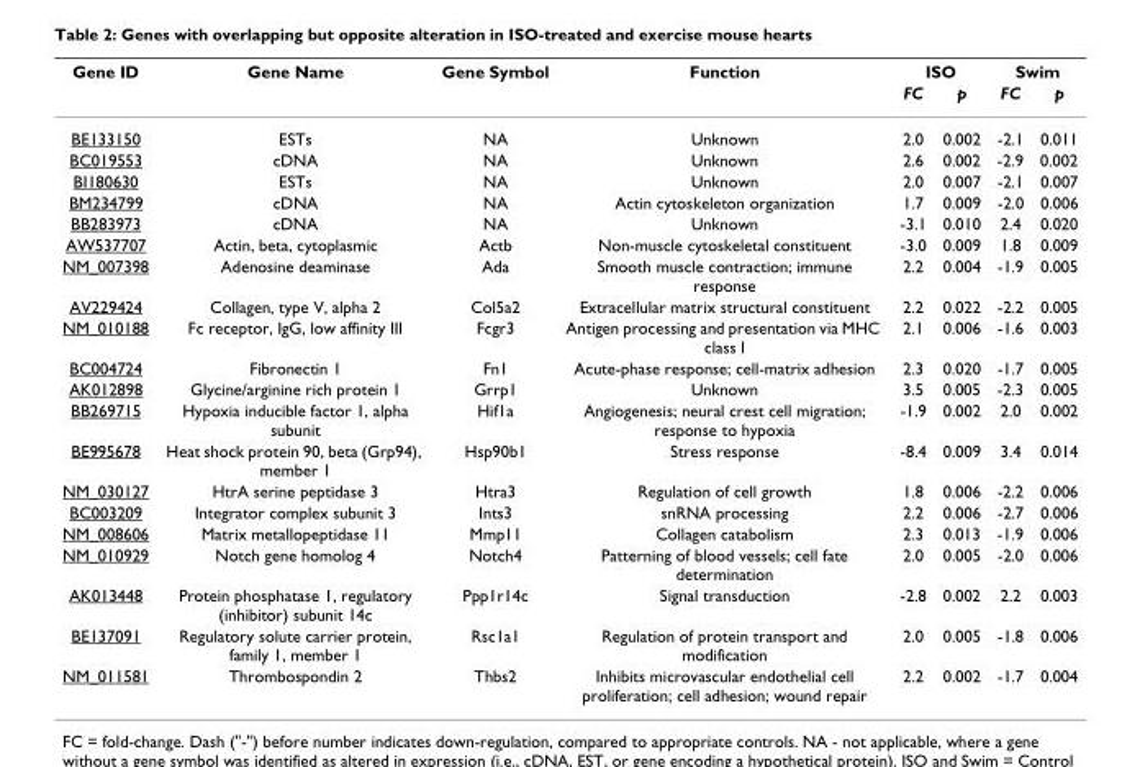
<table><thead><tr><td rowspan="2">Gene ID</td><td rowspan="2">Gene Name</td><td rowspan="2">Gene Symbol</td><td rowspan="2">Function</td><td colspan="2">ISO</td><td colspan="2">Swim</td></tr><tr><td>FC</td><td>p</td><td>FC</td><td>p</td></tr></thead><tbody><tr><td>BE133150</td><td>ESTs</td><td>NA</td><td>Unknown</td><td>2.0</td><td>0.002</td><td>-2.1</td><td>0.011</td></tr><tr><td>BC019553</td><td>cDNA</td><td>NA</td><td>Unknown</td><td>2.6</td><td>0.002</td><td>-2.9</td><td>0.002</td></tr><tr><td>BI180630</td><td>ESTs</td><td>NA</td><td>Unknown</td><td>2.0</td><td>0.007</td><td>-2.1</td><td>0.007</td></tr><tr><td>BM234799</td><td>cDNA</td><td>NA</td><td>Actin cytoskeleton organization</td><td>1.7</td><td>0.009</td><td>-2.0</td><td>0.006</td></tr><tr><td>BB283973</td><td>cDNA</td><td>NA</td><td>Unknown</td><td>-3.1</td><td>0.010</td><td>2.4</td><td>0.020</td></tr><tr><td>AW537707</td><td>Actin, beta, cytoplasmic</td><td>Actb</td><td>Non-muscle cytoskeletal constituent</td><td>-3.0</td><td>0.009</td><td>1.8</td><td>0.009</td></tr><tr><td>NM_007398</td><td>Adenosine deaminase</td><td>Ada</td><td>Smooth muscle contraction; immune response</td><td>2.2</td><td>0.004</td><td>-1.9</td><td>0.005</td></tr><tr><td>AV229424</td><td>Collagen, type V, alpha 2</td><td>Col5a2</td><td>Extracellular matrix structural constituent</td><td>2.2</td><td>0.022</td><td>-2.2</td><td>0.005</td></tr><tr><td>NM_010188</td><td>Fc receptor, IgG, low affinity III</td><td>Fcgr3</td><td>Antigen processing and presentation via MHC class I</td><td>2.1</td><td>0.006</td><td>-1.6</td><td>0.003</td></tr><tr><td>BC004724</td><td>Fibronectin 1</td><td>Fn1</td><td>Acute-phase response; cell-matrix adhesion</td><td>2.3</td><td>0.020</td><td>-1.7</td><td>0.005</td></tr><tr><td>AK012898</td><td>Glycine/arginine rich protein 1</td><td>Grrp1</td><td>Unknown</td><td>3.5</td><td>0.005</td><td>-2.3</td><td>0.005</td></tr><tr><td>BB269715</td><td>Hypoxia inducible factor 1, alpha subunit</td><td>Hif1a</td><td>Angiogenesis; neural crest cell migration; response to hypoxia</td><td>-1.9</td><td>0.002</td><td>2.0</td><td>0.002</td></tr><tr><td>BE995678</td><td>Heat shock protein 90, beta (Grp94), member 1</td><td>Hsp90b1</td><td>Stress response</td><td>-8.4</td><td>0.009</td><td>3.4</td><td>0.014</td></tr><tr><td>NM_030127</td><td>HtrA serine peptidase 3</td><td>Htra3</td><td>Regulation of cell growth</td><td>1.8</td><td>0.006</td><td>-2.2</td><td>0.006</td></tr><tr><td>BC003209</td><td>Integrator complex subunit 3</td><td>Ints3</td><td>snRNA processing</td><td>2.2</td><td>0.006</td><td>-2.7</td><td>0.006</td></tr><tr><td>NM_008606</td><td>Matrix metallopeptidase 11</td><td>Mmp11</td><td>Collagen catabolism</td><td>2.3</td><td>0.013</td><td>-1.9</td><td>0.006</td></tr><tr><td>NM_010929</td><td>Notch gene homolog 4</td><td>Notch4</td><td>Patterning of blood vessels; cell fate determination</td><td>2.0</td><td>0.005</td><td>-2.0</td><td>0.006</td></tr><tr><td>AK013448</td><td>Protein phosphatase 1, regulatory (inhibitor) subunit 14c</td><td>Ppp1r14c</td><td>Signal transduction</td><td>-2.8</td><td>0.002</td><td>2.2</td><td>0.003</td></tr><tr><td>BE137091</td><td>Regulatory solute carrier protein, family 1, member 1</td><td>Rsc1a1</td><td>Regulation of protein transport and modification</td><td>2.0</td><td>0.005</td><td>-1.8</td><td>0.006</td></tr><tr><td>NM_011581</td><td>Thrombospondin 2</td><td>Thbs2</td><td>Inhibits microvascular endothelial cell proliferation; cell adhesion; wound repair</td><td>2.2</td><td>0.002</td><td>-1.7</td><td>0.004</td></tr></tbody></table>